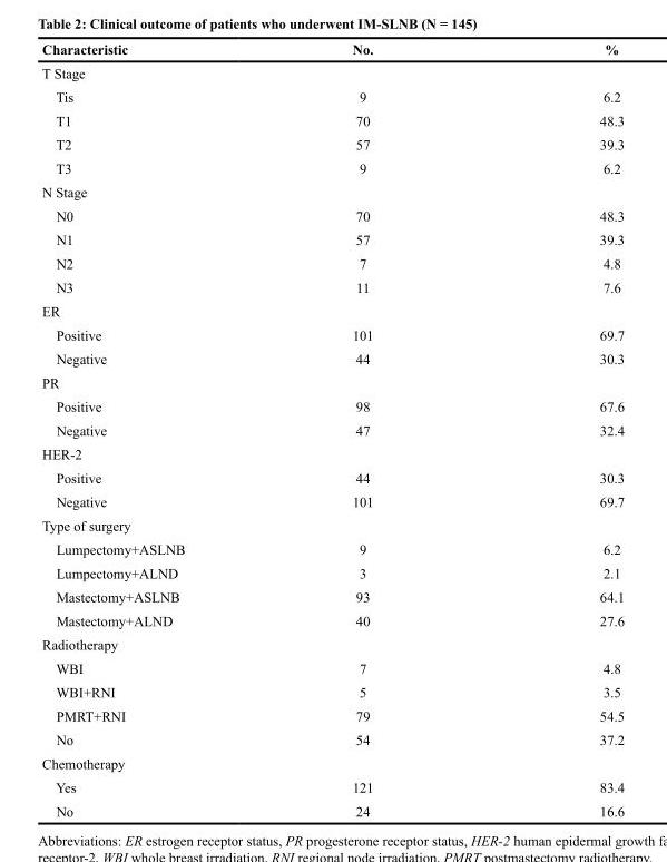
<table><thead><tr><td>Characteristic</td><td>No.</td><td>%</td></tr></thead><tbody><tr><td colspan="3">T Stage</td></tr><tr><td>Tis</td><td>9</td><td>6.2</td></tr><tr><td>T1</td><td>70</td><td>48.3</td></tr><tr><td>T2</td><td>57</td><td>39.3</td></tr><tr><td>T3</td><td>9</td><td>6.2</td></tr><tr><td colspan="3">N Stage</td></tr><tr><td>N0</td><td>70</td><td>48.3</td></tr><tr><td>N1</td><td>57</td><td>39.3</td></tr><tr><td>N2</td><td>7</td><td>4.8</td></tr><tr><td>N3</td><td>11</td><td>7.6</td></tr><tr><td colspan="3">ER</td></tr><tr><td>Positive</td><td>101</td><td>69.7</td></tr><tr><td>Negative</td><td>44</td><td>30.3</td></tr><tr><td colspan="3">PR</td></tr><tr><td>Positive</td><td>98</td><td>67.6</td></tr><tr><td>Negative</td><td>47</td><td>32.4</td></tr><tr><td colspan="3">HER-2</td></tr><tr><td>Positive</td><td>44</td><td>30.3</td></tr><tr><td>Negative</td><td>101</td><td>69.7</td></tr><tr><td colspan="3">Type of surgery</td></tr><tr><td>Lumpectomy+ASLNB</td><td>9</td><td>6.2</td></tr><tr><td>Lumpectomy+ALND</td><td>3</td><td>2.1</td></tr><tr><td>Mastectomy+ASLNB</td><td>93</td><td>64.1</td></tr><tr><td>Mastectomy+ALND</td><td>40</td><td>27.6</td></tr><tr><td colspan="3">Radiotherapy</td></tr><tr><td>WBI</td><td>7</td><td>4.8</td></tr><tr><td>WBI+RNI</td><td>5</td><td>3.5</td></tr><tr><td>PMRT+RNI</td><td>79</td><td>54.5</td></tr><tr><td>No</td><td>54</td><td>37.2</td></tr><tr><td colspan="3">Chemotherapy</td></tr><tr><td>Yes</td><td>121</td><td>83.4</td></tr><tr><td>No</td><td>24</td><td>16.6</td></tr></tbody></table>